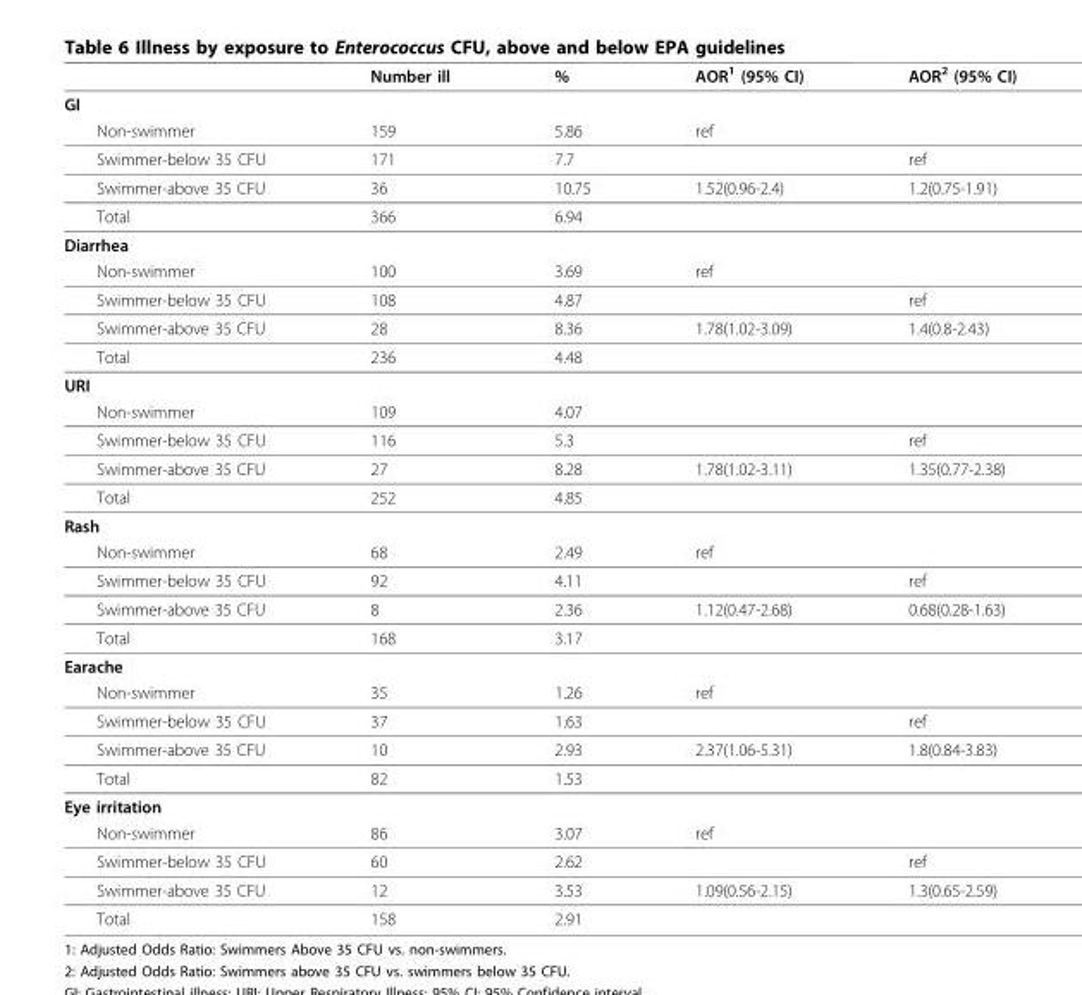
<table><thead><tr><td></td><td>Number ill</td><td>%</td><td>AOR1 (95% CI)</td><td>AOR2 (95% CI)</td></tr></thead><tbody><tr><td colspan="5">GI</td></tr><tr><td>Non-swimmer</td><td>159</td><td>5.86</td><td>ref</td><td></td></tr><tr><td>Swimmer-below 35 CFU</td><td>171</td><td>7.7</td><td></td><td>ref</td></tr><tr><td>Swimmer-above 35 CFU</td><td>36</td><td>10.75</td><td>1.52(0.96-2.4)</td><td>1.2(0.75-1.91)</td></tr><tr><td>Total</td><td>366</td><td>6.94</td><td></td><td></td></tr><tr><td colspan="5">Diarrhea</td></tr><tr><td>Non-swimmer</td><td>100</td><td>3.69</td><td>ref</td><td></td></tr><tr><td>Swimmer-below 35 CFU</td><td>108</td><td>4.87</td><td></td><td>ref</td></tr><tr><td>Swimmer-above 35 CFU</td><td>28</td><td>8.36</td><td>1.78(1.02-3.09)</td><td>1.4(0.8-2.43)</td></tr><tr><td>Total</td><td>236</td><td>4.48</td><td></td><td></td></tr><tr><td colspan="5">URI</td></tr><tr><td>Non-swimmer</td><td>109</td><td>4.07</td><td></td><td></td></tr><tr><td>Swimmer-below 35 CFU</td><td>116</td><td>5.3</td><td></td><td>ref</td></tr><tr><td>Swimmer-above 35 CFU</td><td>27</td><td>8.28</td><td>1.78(1.02-3.11)</td><td>1.35(0.77-2.38)</td></tr><tr><td>Total</td><td>252</td><td>4.85</td><td></td><td></td></tr><tr><td colspan="5">Rash</td></tr><tr><td>Non-swimmer</td><td>68</td><td>2.49</td><td>ref</td><td></td></tr><tr><td>Swimmer-below 35 CFU</td><td>92</td><td>4.11</td><td></td><td>ref</td></tr><tr><td>Swimmer-above 35 CFU</td><td>8</td><td>2.36</td><td>1.12(0.47-2.68)</td><td>0.68(0.28-1.63)</td></tr><tr><td>Total</td><td>168</td><td>3.17</td><td></td><td></td></tr><tr><td colspan="5">Earache</td></tr><tr><td>Non-swimmer</td><td>35</td><td>1.26</td><td>ref</td><td></td></tr><tr><td>Swimmer-below 35 CFU</td><td>37</td><td>1.63</td><td></td><td>ref</td></tr><tr><td>Swimmer-above 35 CFU</td><td>10</td><td>2.93</td><td>2.37(1.06-5.31)</td><td>1.8(0.84-3.83)</td></tr><tr><td>Total</td><td>82</td><td>1.53</td><td></td><td></td></tr><tr><td colspan="5">Eye irritation</td></tr><tr><td>Non-swimmer</td><td>86</td><td>3.07</td><td>ref</td><td></td></tr><tr><td>Swimmer-below 35 CFU</td><td>60</td><td>2.62</td><td></td><td>ref</td></tr><tr><td>Swimmer-above 35 CFU</td><td>12</td><td>3.53</td><td>1.09(0.56-2.15)</td><td>1.3(0.65-2.59)</td></tr><tr><td>Total</td><td>158</td><td>2.91</td><td></td><td></td></tr></tbody></table>